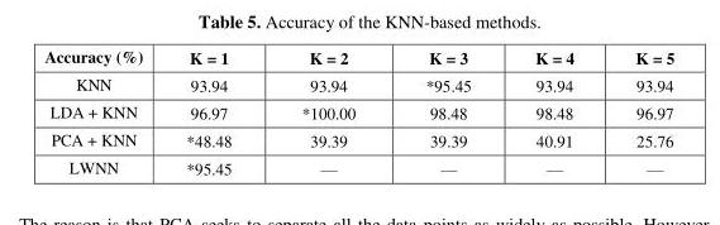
<table><thead><tr><td>Accuracy (%)</td><td>K = 1</td><td>K = 2</td><td>K = 3</td><td>K = 4</td><td>K = 5</td></tr></thead><tbody><tr><td>KNN</td><td>93.94</td><td>93.94</td><td>*95.45</td><td>93.94</td><td>93.94</td></tr><tr><td>LDA + KNN</td><td>96.97</td><td>*100.00</td><td>98.48</td><td>98.48</td><td>96.97</td></tr><tr><td>PCA + KNN</td><td>*48.48</td><td>39.39</td><td>39.39</td><td>40.91</td><td>25.76</td></tr><tr><td>LWNN</td><td>*95.45</td><td>—</td><td>—</td><td>—</td><td>—</td></tr></tbody></table>